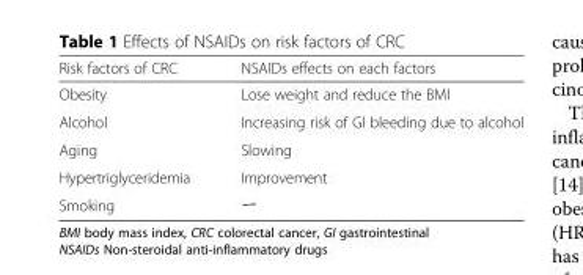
<table><thead><tr><td>Risk factors of CRC</td><td>NSAIDs effects on each factors</td></tr></thead><tbody><tr><td>Obesity</td><td>Lose weight and reduce the BMI</td></tr><tr><td>Alcohol</td><td>Increasing risk of GI bleeding due to alcohol</td></tr><tr><td>Aging</td><td>Slowing</td></tr><tr><td>Hypertriglyceridemia</td><td>Improvement</td></tr><tr><td>Smoking</td><td>ー</td></tr></tbody></table>